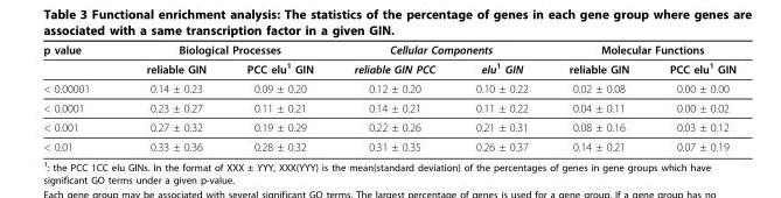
<table><thead><tr><td rowspan="2">p value</td><td colspan="2">Biological Processes</td><td colspan="2">Cellular Components</td><td colspan="2">Molecular Functions</td></tr><tr><td>reliable GIN</td><td>PCC elu<sup>1</sup> GIN</td><td>reliable GIN PCC</td><td>elu<sup>1</sup> GIN</td><td>reliable GIN</td><td>PCC elu<sup>1</sup> GIN</td></tr></thead><tbody><tr><td>&lt; 0.00001</td><td>0.14 ± 0.23</td><td>0.09 ± 0.20</td><td>0.12 ± 0.20</td><td>0.10 ± 0.22</td><td>0.02 ± 0.08</td><td>0.00 ± 0.00</td></tr><tr><td>&lt; 0.0001</td><td>0.23 ± 0.27</td><td>0.11 ± 0.21</td><td>0.14 ± 0.21</td><td>0.11 ± 0.22</td><td>0.04 ± 0.11</td><td>0.00 ± 0.02</td></tr><tr><td>&lt; 0.001</td><td>0.27 ± 0.32</td><td>0.19 ± 0.29</td><td>0.22 ± 0.26</td><td>0.21 ± 0.31</td><td>0.08 ± 0.16</td><td>0.03 ± 0.12</td></tr><tr><td>&lt; 0.01</td><td>0.33 ± 0.36</td><td>0.28 ± 0.32</td><td>0.31 ± 0.35</td><td>0.26 ± 0.37</td><td>0.14 ± 0.21</td><td>0.07 ± 0.19</td></tr></tbody></table>